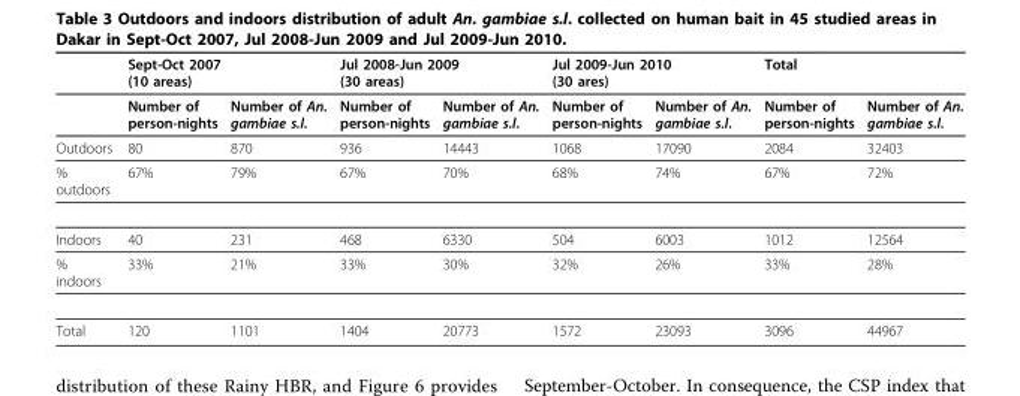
<table><thead><tr><td rowspan="2"></td><td colspan="2">Sept-Oct 2007 (10 areas)</td><td colspan="2">Jul 2008-Jun 2009 (30 areas)</td><td colspan="2">Jul 2009-Jun 2010 (30 ares)</td><td colspan="2">Total</td></tr><tr><td>Number of person-nights</td><td>Number of An. gambiae s.l.</td><td>Number of person-nights</td><td>Number of An. gambiae s.l.</td><td>Number of person-nights</td><td>Number of An. gambiae s.l.</td><td>Number of person-nights</td><td>Number of An. gambiae s.l.</td></tr></thead><tbody><tr><td>Outdoors</td><td>80</td><td>870</td><td>936</td><td>14443</td><td>1068</td><td>17090</td><td>2084</td><td>32403</td></tr><tr><td>% outdoors</td><td>67%</td><td>79%</td><td>67%</td><td>70%</td><td>68%</td><td>74%</td><td>67%</td><td>72%</td></tr><tr><td>Indoors</td><td>40</td><td>231</td><td>468</td><td>6330</td><td>504</td><td>6003</td><td>1012</td><td>12564</td></tr><tr><td>% indoors</td><td>33%</td><td>21%</td><td>33%</td><td>30%</td><td>32%</td><td>26%</td><td>33%</td><td>28%</td></tr><tr><td>Total</td><td>120</td><td>1101</td><td>1404</td><td>20773</td><td>1572</td><td>23093</td><td>3096</td><td>44967</td></tr></tbody></table>